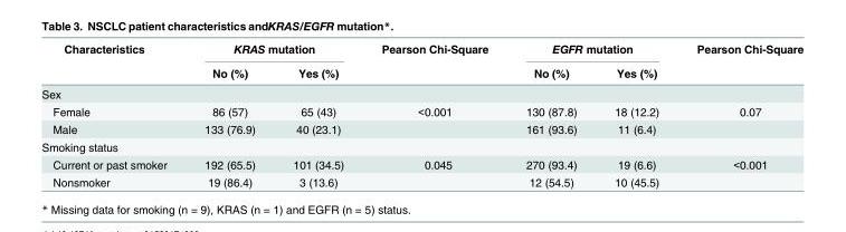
<table><thead><tr><td rowspan="2">Characteristics</td><td colspan="2">KRAS mutation</td><td rowspan="2">Pearson Chi-Square</td><td colspan="2">EGFR mutation</td><td rowspan="2">Pearson Chi-Square</td></tr><tr><td>No (%)</td><td>Yes (%)</td><td>No (%)</td><td>Yes (%)</td></tr></thead><tbody><tr><td colspan="7">Sex</td></tr><tr><td>Female</td><td>86 (57)</td><td>65 (43)</td><td>&lt;0.001</td><td>130 (87.8)</td><td>18 (12.2)</td><td>0.07</td></tr><tr><td>Male</td><td>133 (76.9)</td><td>40 (23.1)</td><td></td><td>161 (93.6)</td><td>11 (6.4)</td><td></td></tr><tr><td colspan="7">Smoking status</td></tr><tr><td>Current or past smoker</td><td>192 (65.5)</td><td>101 (34.5)</td><td>0.045</td><td>270 (93.4)</td><td>19 (6.6)</td><td>&lt;0.001</td></tr><tr><td>Nonsmoker</td><td>19 (86.4)</td><td>3 (13.6)</td><td></td><td>12 (54.5)</td><td>10 (45.5)</td><td></td></tr></tbody></table>